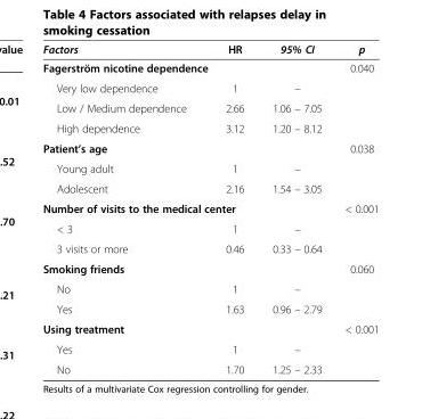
<table><thead><tr><td>Factors</td><td>HR</td><td>95% CI</td><td>p</td></tr></thead><tbody><tr><td colspan="2">Fagerström nicotine dependence</td><td></td><td>0.040</td></tr><tr><td>Very low dependence</td><td>1</td><td>–</td><td></td></tr><tr><td>Low / Medium dependence</td><td>2.66</td><td>1.06 – 7.05</td><td></td></tr><tr><td>High dependence</td><td>3.12</td><td>1.20 – 8.12</td><td></td></tr><tr><td>Patient’s age</td><td></td><td></td><td>0.038</td></tr><tr><td>Young adult</td><td>1</td><td>–</td><td></td></tr><tr><td>Adolescent</td><td>2.16</td><td>1.54 – 3.05</td><td></td></tr><tr><td colspan="2">Number of visits to the medical center</td><td></td><td>&lt; 0.001</td></tr><tr><td>&lt; 3</td><td>1</td><td>–</td><td></td></tr><tr><td>3 visits or more</td><td>0.46</td><td>0.33 – 0.64</td><td></td></tr><tr><td>Smoking friends</td><td></td><td></td><td>0.060</td></tr><tr><td>No</td><td>1</td><td>–</td><td></td></tr><tr><td>Yes</td><td>1.63</td><td>0.96 – 2.79</td><td></td></tr><tr><td>Using treatment</td><td></td><td></td><td>&lt; 0.001</td></tr><tr><td>Yes</td><td>1</td><td>–</td><td></td></tr><tr><td>No</td><td>1.70</td><td>1.25 – 2.33</td><td></td></tr></tbody></table>